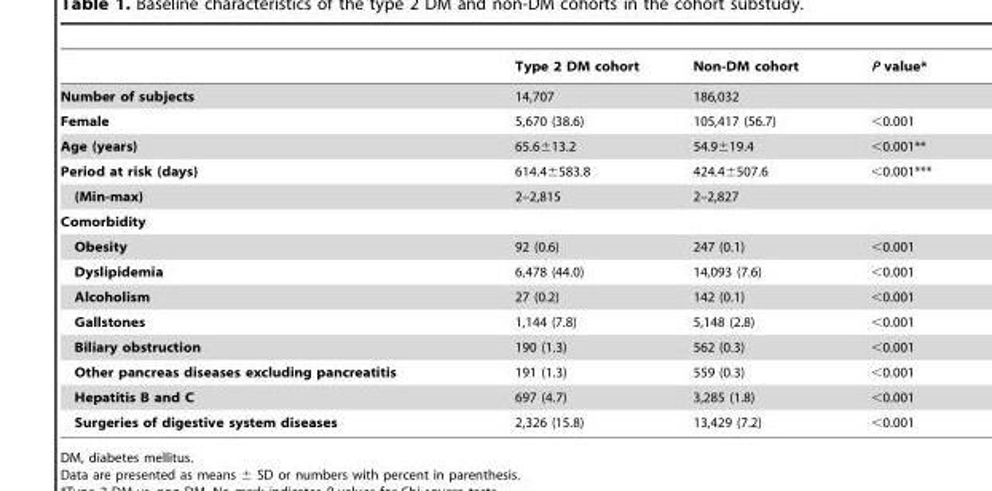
<table><thead><tr><td></td><td>Type 2 DM cohort</td><td>Non-DM cohort</td><td>P value*</td></tr></thead><tbody><tr><td>Number of subjects</td><td>14,707</td><td>186,032</td><td></td></tr><tr><td>Female</td><td>5,670 (38.6)</td><td>105,417 (56.7)</td><td>&lt;0.001</td></tr><tr><td>Age (years)</td><td>65.6±13.2</td><td>54.9±19.4</td><td>&lt;0.001**</td></tr><tr><td>Period at risk (days)</td><td>614.4±583.8</td><td>424.4±507.6</td><td>&lt;0.001***</td></tr><tr><td>(Min-max)</td><td>2–2,815</td><td>2–2,827</td><td></td></tr><tr><td colspan="4">Comorbidity</td></tr><tr><td>Obesity</td><td>92 (0.6)</td><td>247 (0.1)</td><td>&lt;0.001</td></tr><tr><td>Dyslipidemia</td><td>6,478 (44.0)</td><td>14,093 (7.6)</td><td>&lt;0.001</td></tr><tr><td>Alcoholism</td><td>27 (0.2)</td><td>142 (0.1)</td><td>&lt;0.001</td></tr><tr><td>Gallstones</td><td>1,144 (7.8)</td><td>5,148 (2.8)</td><td>&lt;0.001</td></tr><tr><td>Biliary obstruction</td><td>190 (1.3)</td><td>562 (0.3)</td><td>&lt;0.001</td></tr><tr><td>Other pancreas diseases excluding pancreatitis</td><td>191 (1.3)</td><td>559 (0.3)</td><td>&lt;0.001</td></tr><tr><td>Hepatitis B and C</td><td>697 (4.7)</td><td>3,285 (1.8)</td><td>&lt;0.001</td></tr><tr><td>Surgeries of digestive system diseases</td><td>2,326 (15.8)</td><td>13,429 (7.2)</td><td>&lt;0.001</td></tr></tbody></table>